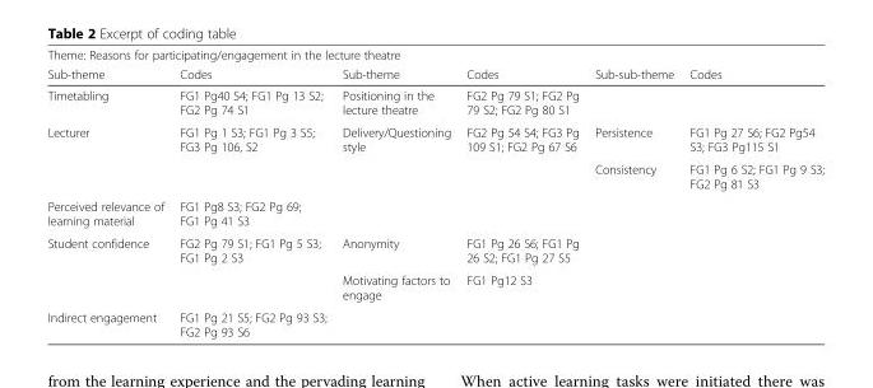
<table><thead><tr><td colspan="6">Theme: Reasons for participating/engagement in the lecture theatre</td></tr><tr><td>Sub-theme</td><td>Codes</td><td>Sub-theme</td><td>Codes</td><td>Sub-sub-theme</td><td>Codes</td></tr></thead><tbody><tr><td>Timetabling</td><td>FG1 Pg40 S4; FG1 Pg 13 S2; FG2 Pg 74 S1</td><td>Positioning in the lecture theatre</td><td>FG2 Pg 79 S1; FG2 Pg 79 S2; FG2 Pg 80 S1</td><td></td><td></td></tr><tr><td rowspan="2">Lecturer</td><td>FG1 Pg 1 S3; FG1 Pg 3 S5; FG3 Pg 106, S2</td><td>Delivery/Questioning style</td><td>FG2 Pg 54 S4; FG3 Pg 109 S1; FG2 Pg 67 S6</td><td>Persistence</td><td>FG1 Pg 27 S6; FG2 Pg54 S3; FG3 Pg115 S1</td></tr><tr><td></td><td></td><td></td><td>Consistency</td><td>FG1 Pg 6 S2; FG1 Pg 9 S3; FG2 Pg 81 S3</td></tr><tr><td>Perceived relevance of learning material</td><td>FG1 Pg8 S3; FG2 Pg 69; FG1 Pg 41 S3</td><td></td><td></td><td></td><td></td></tr><tr><td rowspan="2">Student confidence</td><td>FG2 Pg 79 S1; FG1 Pg 5 S3; FG1 Pg 2 S3</td><td>Anonymity</td><td>FG1 Pg 26 S6; FG1 Pg 26 S2; FG1 Pg 27 S5</td><td></td><td></td></tr><tr><td></td><td>Motivating factors to engage</td><td>FG1 Pg12 S3</td><td></td><td></td></tr><tr><td>Indirect engagement</td><td>FG1 Pg 21 S5; FG2 Pg 93 S3; FG2 Pg 93 S6</td><td></td><td></td><td></td><td></td></tr></tbody></table>